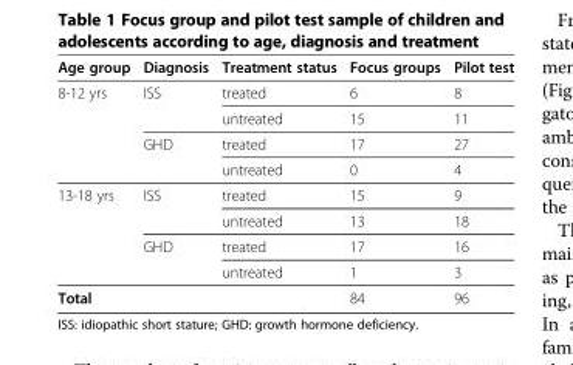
<table><thead><tr><td>Age group</td><td>Diagnosis</td><td>Treatment status</td><td>Focus groups</td><td>Pilot test</td></tr></thead><tbody><tr><td rowspan="4">8-12 yrs</td><td rowspan="2">ISS</td><td>treated</td><td>6</td><td>8</td></tr><tr><td>untreated</td><td>15</td><td>11</td></tr><tr><td rowspan="2">GHD</td><td>treated</td><td>17</td><td>27</td></tr><tr><td>untreated</td><td>0</td><td>4</td></tr><tr><td rowspan="4">13-18 yrs</td><td rowspan="2">ISS</td><td>treated</td><td>15</td><td>9</td></tr><tr><td>untreated</td><td>13</td><td>18</td></tr><tr><td rowspan="2">GHD</td><td>treated</td><td>17</td><td>16</td></tr><tr><td>untreated</td><td>1</td><td>3</td></tr><tr><td colspan="3">Total</td><td>84</td><td>96</td></tr></tbody></table>